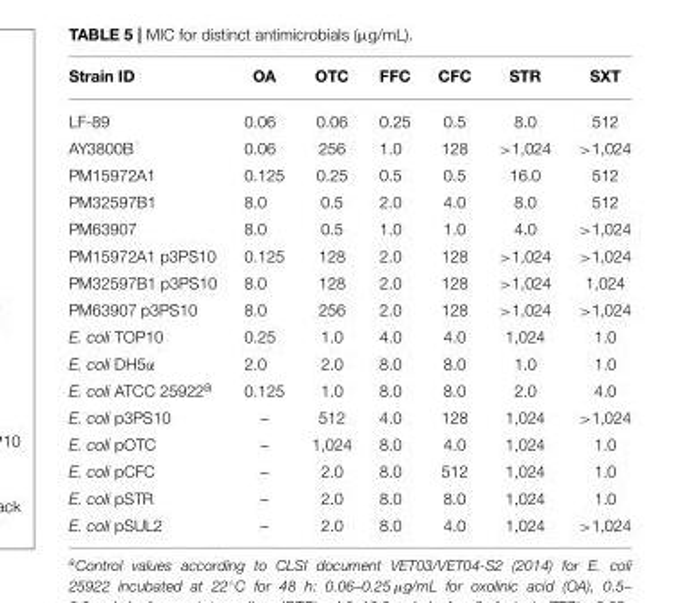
<table><thead><tr><td>Strain ID</td><td>OA</td><td>OTC</td><td>FFC</td><td>CFC</td><td>STR</td><td>SXT</td></tr></thead><tbody><tr><td>LF-89</td><td>0.06</td><td>0.06</td><td>0.25</td><td>0.5</td><td>8.0</td><td>512</td></tr><tr><td>AY3800B</td><td>0.06</td><td>256</td><td>1.0</td><td>128</td><td>&gt;1,024</td><td>&gt;1,024</td></tr><tr><td>PM15972A1</td><td>0.125</td><td>0.25</td><td>0.5</td><td>0.5</td><td>16.0</td><td>512</td></tr><tr><td>PM32597B1</td><td>8.0</td><td>0.5</td><td>2.0</td><td>4.0</td><td>8.0</td><td>512</td></tr><tr><td>PM63907</td><td>8.0</td><td>0.5</td><td>1.0</td><td>1.0</td><td>4.0</td><td>&gt;1,024</td></tr><tr><td>PM15972A1 p3PS10</td><td>0.125</td><td>128</td><td>2.0</td><td>128</td><td>&gt;1,024</td><td>&gt;1,024</td></tr><tr><td>PM32597B1 p3PS10</td><td>8.0</td><td>128</td><td>2.0</td><td>128</td><td>&gt;1,024</td><td>1,024</td></tr><tr><td>PM63907 p3PS10</td><td>8.0</td><td>256</td><td>2.0</td><td>128</td><td>&gt;1,024</td><td>&gt;1,024</td></tr><tr><td>E. coli TOP10</td><td>0.25</td><td>1.0</td><td>4.0</td><td>4.0</td><td>1,024</td><td>1.0</td></tr><tr><td>E. coli DH5α</td><td>2.0</td><td>2.0</td><td>8.0</td><td>8.0</td><td>1.0</td><td>1.0</td></tr><tr><td>E. coli ATCC 25922<sup>a</sup></td><td>0.125</td><td>1.0</td><td>8.0</td><td>8.0</td><td>2.0</td><td>4.0</td></tr><tr><td>E. coli p3PS10</td><td>–</td><td>512</td><td>4.0</td><td>128</td><td>1,024</td><td>&gt;1,024</td></tr><tr><td>E. coli pOTC</td><td>–</td><td>1,024</td><td>8.0</td><td>4.0</td><td>1,024</td><td>1.0</td></tr><tr><td>E. coli pCFC</td><td>–</td><td>2.0</td><td>8.0</td><td>512</td><td>1,024</td><td>1.0</td></tr><tr><td>E. coli pSTR</td><td>–</td><td>2.0</td><td>8.0</td><td>8.0</td><td>1,024</td><td>1.0</td></tr><tr><td>E. coli pSUL2</td><td>–</td><td>2.0</td><td>8.0</td><td>4.0</td><td>1,024</td><td>&gt;1,024</td></tr></tbody></table>